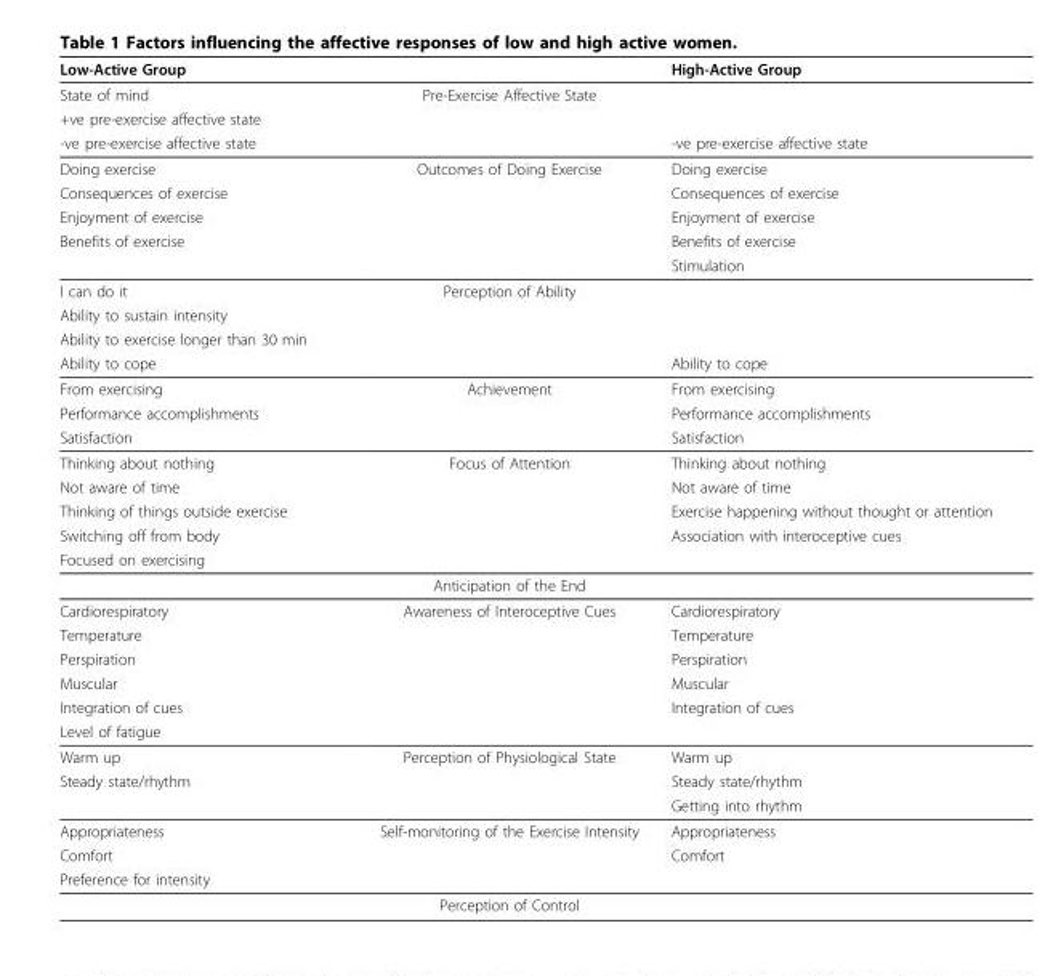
<table><thead><tr><td>Low-Active Group</td><td></td><td>High-Active Group</td></tr></thead><tbody><tr><td>State of mind</td><td>Pre-Exercise Affective State</td><td></td></tr><tr><td colspan="3">+ve pre-exercise affective state</td></tr><tr><td>-ve pre-exercise affective state</td><td></td><td>-ve pre-exercise affective state</td></tr><tr><td>Doing exercise</td><td>Outcomes of Doing Exercise</td><td>Doing exercise</td></tr><tr><td>Consequences of exercise</td><td></td><td>Consequences of exercise</td></tr><tr><td>Enjoyment of exercise</td><td></td><td>Enjoyment of exercise</td></tr><tr><td rowspan="2">Benefits of exercise</td><td></td><td>Benefits of exercise</td></tr><tr><td></td><td>Stimulation</td></tr><tr><td>I can do it</td><td>Perception of Ability</td><td></td></tr><tr><td colspan="3">Ability to sustain intensity</td></tr><tr><td colspan="3">Ability to exercise longer than 30 min</td></tr><tr><td>Ability to cope</td><td></td><td>Ability to cope</td></tr><tr><td>From exercising</td><td>Achievement</td><td>From exercising</td></tr><tr><td>Performance accomplishments</td><td></td><td>Performance accomplishments</td></tr><tr><td>Satisfaction</td><td></td><td>Satisfaction</td></tr><tr><td>Thinking about nothing</td><td>Focus of Attention</td><td>Thinking about nothing</td></tr><tr><td>Not aware of time</td><td></td><td>Not aware of time</td></tr><tr><td>Thinking of things outside exercise</td><td></td><td>Exercise happening without thought or attention</td></tr><tr><td>Switching off from body</td><td></td><td>Association with interoceptive cues</td></tr><tr><td colspan="3">Focused on exercising</td></tr><tr><td></td><td>Anticipation of the End</td><td></td></tr><tr><td>Cardiorespiratory</td><td>Awareness of Interoceptive Cues</td><td>Cardiorespiratory</td></tr><tr><td>Temperature</td><td></td><td>Temperature</td></tr><tr><td>Perspiration</td><td></td><td>Perspiration</td></tr><tr><td>Muscular</td><td></td><td>Muscular</td></tr><tr><td>Integration of cues</td><td></td><td>Integration of cues</td></tr><tr><td colspan="3">Level of fatigue</td></tr><tr><td>Warm up</td><td>Perception of Physiological State</td><td>Warm up</td></tr><tr><td rowspan="2">Steady state/rhythm</td><td></td><td>Steady state/rhythm</td></tr><tr><td></td><td>Getting into rhythm</td></tr><tr><td>Appropriateness</td><td>Self-monitoring of the Exercise Intensity</td><td>Appropriateness</td></tr><tr><td>Comfort</td><td></td><td>Comfort</td></tr><tr><td colspan="3">Preference for intensity</td></tr><tr><td></td><td>Perception of Control</td><td></td></tr></tbody></table>